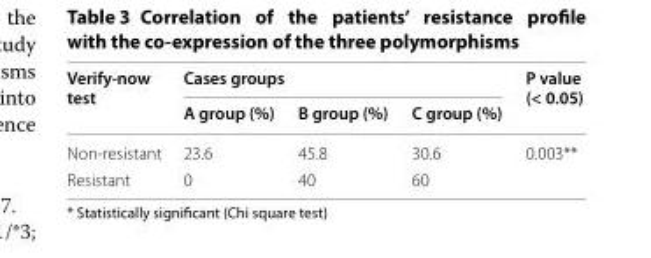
<table><thead><tr><td rowspan="2">Verify-now test</td><td colspan="3">Cases groups</td><td rowspan="2">P value (&lt; 0.05)</td></tr><tr><td>A group (%)</td><td>B group (%)</td><td>C group (%)</td></tr></thead><tbody><tr><td>Non-resistant</td><td>23.6</td><td>45.8</td><td>30.6</td><td rowspan="2">0.003**</td></tr><tr><td>Resistant</td><td>0</td><td>40</td><td>60</td></tr></tbody></table>